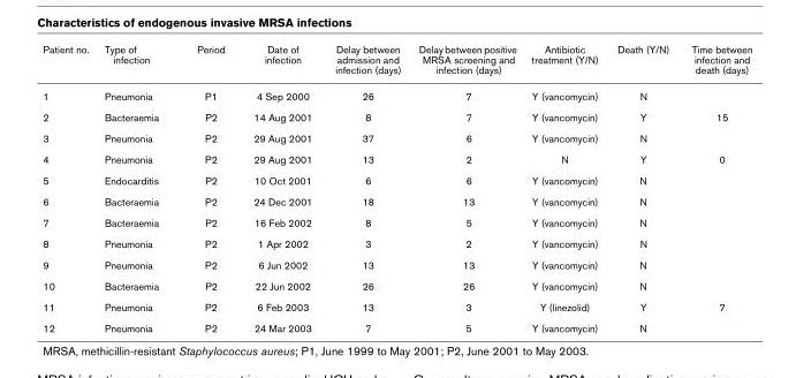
<table><thead><tr><td>Patient no.</td><td>Type of infection</td><td>Period</td><td>Date of infection</td><td>Delay between admission and infection (days)</td><td>Delay between positive MRSA screening and infection (days)</td><td>Antibiotic treatment (Y/N)</td><td>Death (Y/N)</td><td>Time between infection and death (days)</td></tr></thead><tbody><tr><td>1</td><td>Pneumonia</td><td>P1</td><td>4 Sep 2000</td><td>26</td><td>7</td><td>Y (vancomycin)</td><td>N</td><td></td></tr><tr><td>2</td><td>Bacteraemia</td><td>P2</td><td>14 Aug 2001</td><td>8</td><td>7</td><td>Y (vancomycin)</td><td>Y</td><td>15</td></tr><tr><td>3</td><td>Pneumonia</td><td>P2</td><td>29 Aug 2001</td><td>37</td><td>6</td><td>Y (vancomycin)</td><td>N</td><td></td></tr><tr><td>4</td><td>Pneumonia</td><td>P2</td><td>29 Aug 2001</td><td>13</td><td>2</td><td>N</td><td>Y</td><td>0</td></tr><tr><td>5</td><td>Endocarditis</td><td>P2</td><td>10 Oct 2001</td><td>6</td><td>6</td><td>Y (vancomycin)</td><td>N</td><td></td></tr><tr><td>6</td><td>Bacteraemia</td><td>P2</td><td>24 Dec 2001</td><td>18</td><td>13</td><td>Y (vancomycin)</td><td>N</td><td></td></tr><tr><td>7</td><td>Bacteraemia</td><td>P2</td><td>16 Feb 2002</td><td>8</td><td>5</td><td>Y (vancomycin)</td><td>N</td><td></td></tr><tr><td>8</td><td>Pneumonia</td><td>P2</td><td>1 Apr 2002</td><td>3</td><td>2</td><td>Y (vancomycin)</td><td>N</td><td></td></tr><tr><td>9</td><td>Pneumonia</td><td>P2</td><td>6 Jun 2002</td><td>13</td><td>13</td><td>Y (vancomycin)</td><td>N</td><td></td></tr><tr><td>10</td><td>Bacteraemia</td><td>P2</td><td>22 Jun 2002</td><td>26</td><td>26</td><td>Y (vancomycin)</td><td>N</td><td></td></tr><tr><td>11</td><td>Pneumonia</td><td>P2</td><td>6 Feb 2003</td><td>13</td><td>3</td><td>Y (linezolid)</td><td>Y</td><td>7</td></tr><tr><td>12</td><td>Pneumonia</td><td>P2</td><td>24 Mar 2003</td><td>7</td><td>5</td><td>Y (vancomycin)</td><td>N</td><td></td></tr></tbody></table>